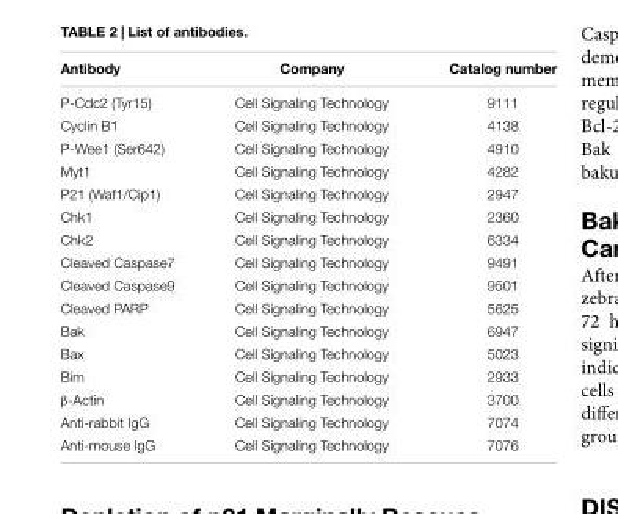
<table><thead><tr><td>Antibody</td><td>Company</td><td>Catalog number</td></tr></thead><tbody><tr><td>P-Cdc2 (Tyr15)</td><td>Cell Signaling Technology</td><td>9111</td></tr><tr><td>Cyclin B1</td><td>Cell Signaling Technology</td><td>4138</td></tr><tr><td>P-Wee1 (Ser642)</td><td>Cell Signaling Technology</td><td>4910</td></tr><tr><td>Myt1</td><td>Cell Signaling Technology</td><td>4282</td></tr><tr><td>P21 (Waf1/Cip1)</td><td>Cell Signaling Technology</td><td>2947</td></tr><tr><td>Chk1</td><td>Cell Signaling Technology</td><td>2360</td></tr><tr><td>Chk2</td><td>Cell Signaling Technology</td><td>6334</td></tr><tr><td>Cleaved Caspase7</td><td>Cell Signaling Technology</td><td>9491</td></tr><tr><td>Cleaved Caspase9</td><td>Cell Signaling Technology</td><td>9501</td></tr><tr><td>Cleaved PARP</td><td>Cell Signaling Technology</td><td>5625</td></tr><tr><td>Bak</td><td>Cell Signaling Technology</td><td>6947</td></tr><tr><td>Bax</td><td>Cell Signaling Technology</td><td>5023</td></tr><tr><td>Bim</td><td>Cell Signaling Technology</td><td>2933</td></tr><tr><td>β-Actin</td><td>Cell Signaling Technology</td><td>3700</td></tr><tr><td>Anti-rabbit IgG</td><td>Cell Signaling Technology</td><td>7074</td></tr><tr><td>Anti-mouse IgG</td><td>Cell Signaling Technology</td><td>7076</td></tr></tbody></table>